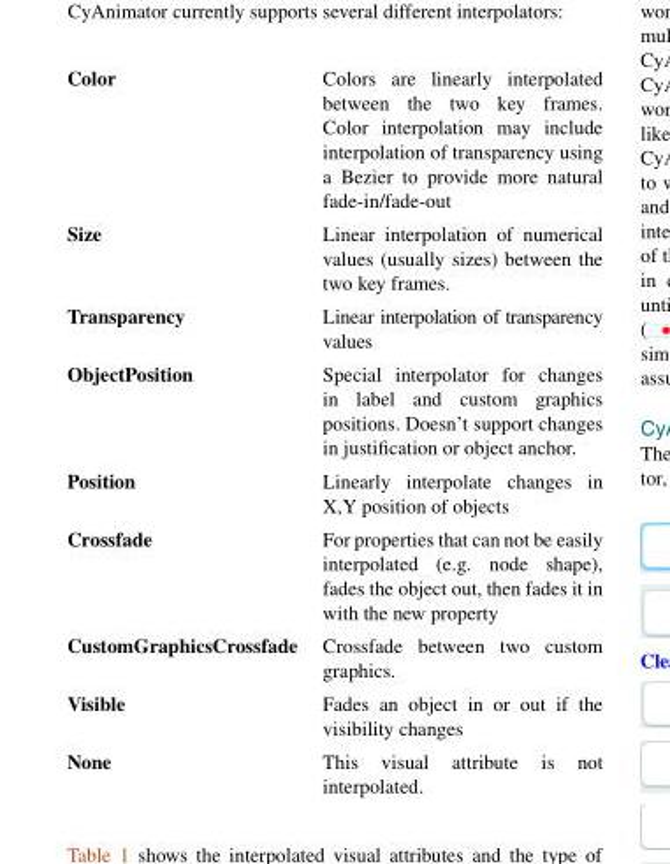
<table><tbody><tr><td>Color</td><td>Colors are linearly interpolated between the two key frames. Color interpolation may include interpolation of transparency using a Bezier to provide more natural fade-in/fade-out</td></tr><tr><td>Size</td><td>Linear interpolation of numerical values (usually sizes) between the two key frames.</td></tr><tr><td>Transparency</td><td>Linear interpolation of transparency values</td></tr><tr><td>ObjectPosition</td><td>Special interpolator for changes in label and custom graphics positions. Doesn’t support changes in justification or object anchor.</td></tr><tr><td>Position</td><td>Linearly interpolate changes in X,Y position of objects</td></tr><tr><td>Crossfade</td><td>For properties that can not be easily interpolated (e.g. node shape), fades the object out, then fades it in with the new property</td></tr><tr><td>CustomGraphicsCrossfade</td><td>Crossfade between two custom graphics.</td></tr><tr><td>Visible</td><td>Fades an object in or out if the visibility changes</td></tr><tr><td>None</td><td>This visual attribute is not interpolated.</td></tr></tbody></table>